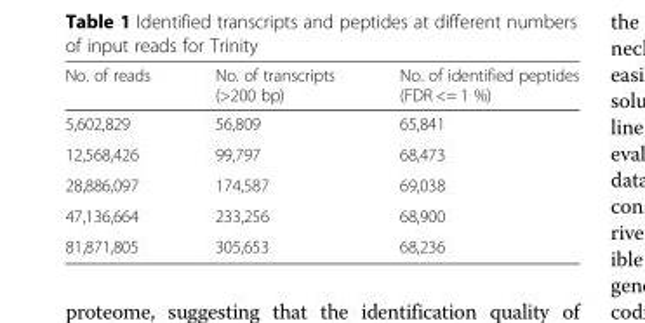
<table><thead><tr><td>No. of reads</td><td>No. of transcripts (&gt;200 bp)</td><td>No. of identified peptides (FDR &lt;= 1 %)</td></tr></thead><tbody><tr><td>5,602,829</td><td>56,809</td><td>65,841</td></tr><tr><td>12,568,426</td><td>99,797</td><td>68,473</td></tr><tr><td>28,886,097</td><td>174,587</td><td>69,038</td></tr><tr><td>47,136,664</td><td>233,256</td><td>68,900</td></tr><tr><td>81,871,805</td><td>305,653</td><td>68,236</td></tr></tbody></table>